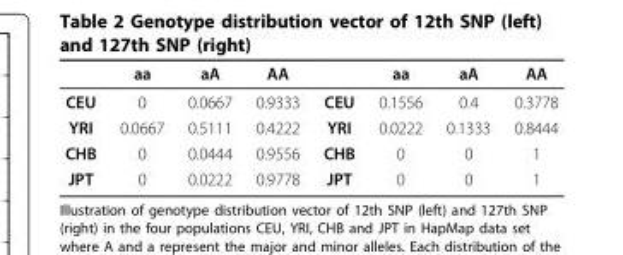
<table><thead><tr><td></td><td>aa</td><td>aA</td><td>AA</td><td></td><td>aa</td><td>aA</td><td>AA</td></tr></thead><tbody><tr><td>CEU</td><td>0</td><td>0.0667</td><td>0.9333</td><td>CEU</td><td>0.1556</td><td>0.4</td><td>0.3778</td></tr><tr><td>YRI</td><td>0.0667</td><td>0.5111</td><td>0.4222</td><td>YRI</td><td>0.0222</td><td>0.1333</td><td>0.8444</td></tr><tr><td>CHB</td><td>0</td><td>0.0444</td><td>0.9556</td><td>CHB</td><td>0</td><td>0</td><td>1</td></tr><tr><td>JPT</td><td>0</td><td>0.0222</td><td>0.9778</td><td>JPT</td><td>0</td><td>0</td><td>1</td></tr></tbody></table>